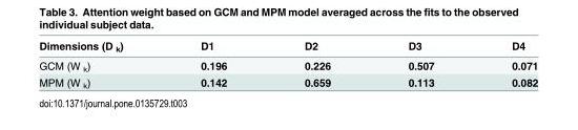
<table><thead><tr><td>Dimensions (D <sub>k</sub>)</td><td>D1</td><td>D2</td><td>D3</td><td>D4</td></tr></thead><tbody><tr><td>GCM (W <sub>k</sub>)</td><td>0.196</td><td>0.226</td><td>0.507</td><td>0.071</td></tr><tr><td>MPM (W <sub>k</sub>)</td><td>0.142</td><td>0.659</td><td>0.113</td><td>0.082</td></tr></tbody></table>